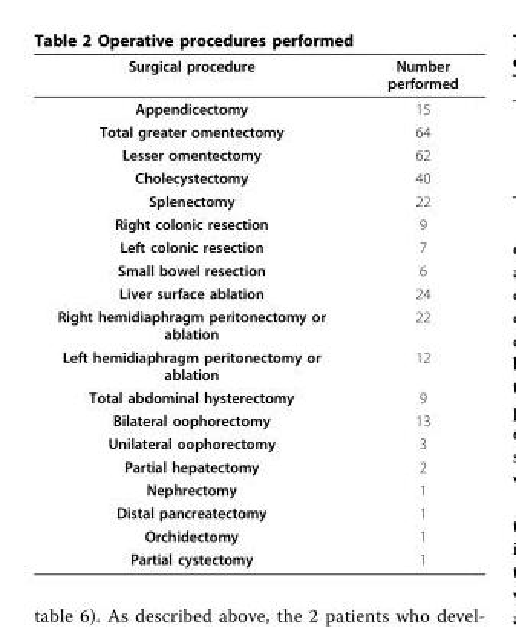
<table><thead><tr><td>Surgical procedure</td><td>Number performed</td></tr></thead><tbody><tr><td>Appendicectomy</td><td>15</td></tr><tr><td>Total greater omentectomy</td><td>64</td></tr><tr><td>Lesser omentectomy</td><td>62</td></tr><tr><td>Cholecystectomy</td><td>40</td></tr><tr><td>Splenectomy</td><td>22</td></tr><tr><td>Right colonic resection</td><td>9</td></tr><tr><td>Left colonic resection</td><td>7</td></tr><tr><td>Small bowel resection</td><td>6</td></tr><tr><td>Liver surface ablation</td><td>24</td></tr><tr><td>Right hemidiaphragm peritonectomy or ablation</td><td>22</td></tr><tr><td>Left hemidiaphragm peritonectomy or ablation</td><td>12</td></tr><tr><td>Total abdominal hysterectomy</td><td>9</td></tr><tr><td>Bilateral oophorectomy</td><td>13</td></tr><tr><td>Unilateral oophorectomy</td><td>3</td></tr><tr><td>Partial hepatectomy</td><td>2</td></tr><tr><td>Nephrectomy</td><td>1</td></tr><tr><td>Distal pancreatectomy</td><td>1</td></tr><tr><td>Orchidectomy</td><td>1</td></tr><tr><td>Partial cystectomy</td><td>1</td></tr></tbody></table>